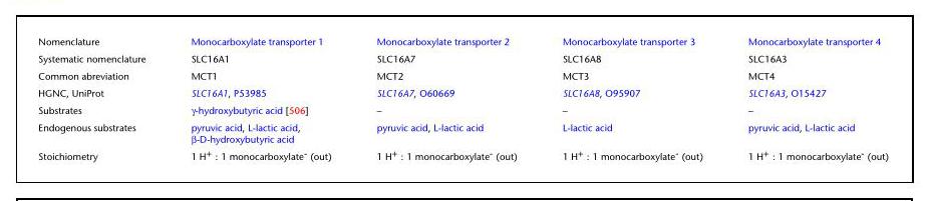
<table><tbody><tr><td>Nomenclature</td><td>Monocarboxylate transporter 1</td><td>Monocarboxylate transporter 2</td><td>Monocarboxylate transporter 3</td><td>Monocarboxylate transporter 4</td></tr><tr><td>Systematic nomenclature</td><td>SLC16A1</td><td>SLC16A7</td><td>SLC16A8</td><td>SLC16A3</td></tr><tr><td>Common abreviation</td><td>MCT1</td><td>MCT2</td><td>MCT3</td><td>MCT4</td></tr><tr><td>HGNC, UniProt</td><td>SLC16A1, P53985</td><td>SLC16A7, O60669</td><td>SLC16A8, O95907</td><td>SLC16A3, O15427</td></tr><tr><td>Substrates</td><td>γ-hydroxybutyric acid [506]</td><td>–</td><td>–</td><td>–</td></tr><tr><td>Endogenous substrates</td><td>pyruvic acid, L-lactic acid, β-D-hydroxybutyric acid</td><td>pyruvic acid, L-lactic acid</td><td>L-lactic acid</td><td>pyruvic acid, L-lactic acid</td></tr><tr><td>Stoichiometry</td><td>1 H<sup>+</sup> : 1 monocarboxylate<sup>-</sup> (out)</td><td>1 H<sup>+</sup> : 1 monocarboxylate<sup>-</sup> (out)</td><td>1 H<sup>+</sup> : 1 monocarboxylate<sup>-</sup> (out)</td><td>1 H<sup>+</sup> : 1 monocarboxylate<sup>-</sup> (out)</td></tr></tbody></table>